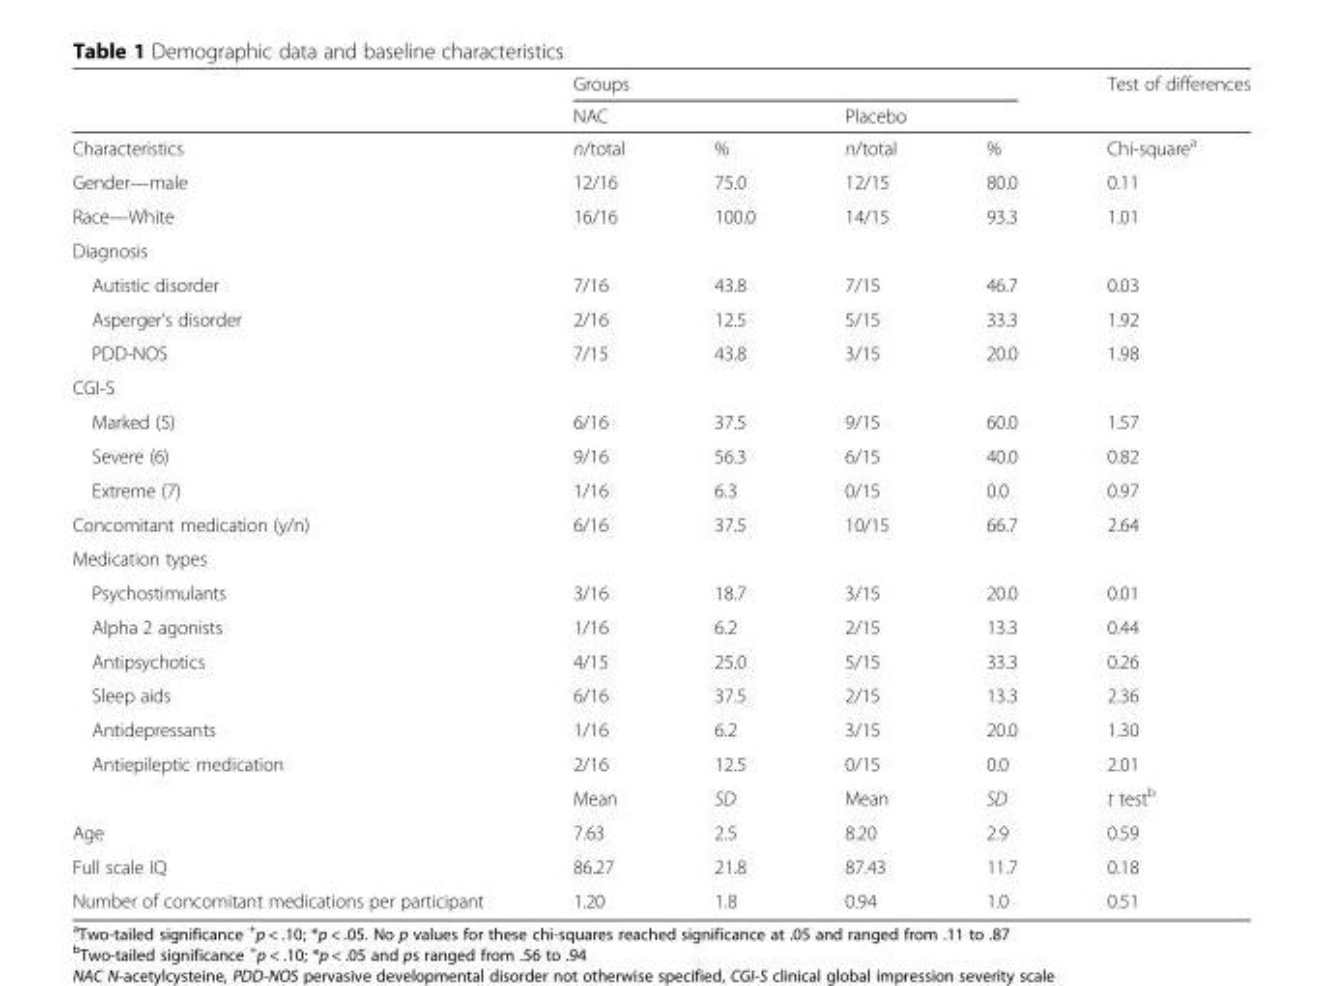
<table><thead><tr><td rowspan="3">Characteristics</td><td colspan="4">Groups</td><td rowspan="3">Test of differences Chi-square<sup>a</sup></td></tr><tr><td colspan="2">NAC</td><td colspan="2">Placebo</td></tr><tr><td>n/total</td><td>%</td><td>n/total</td><td>%</td></tr></thead><tbody><tr><td>Gender—male</td><td>12/16</td><td>75.0</td><td>12/15</td><td>80.0</td><td>0.11</td></tr><tr><td>Race—White</td><td>16/16</td><td>100.0</td><td>14/15</td><td>93.3</td><td>1.01</td></tr><tr><td colspan="6">Diagnosis</td></tr><tr><td>Autistic disorder</td><td>7/16</td><td>43.8</td><td>7/15</td><td>46.7</td><td>0.03</td></tr><tr><td>Asperger’s disorder</td><td>2/16</td><td>12.5</td><td>5/15</td><td>33.3</td><td>1.92</td></tr><tr><td>PDD-NOS</td><td>7/15</td><td>43.8</td><td>3/15</td><td>20.0</td><td>1.98</td></tr><tr><td colspan="6">CGI-S</td></tr><tr><td>Marked (5)</td><td>6/16</td><td>37.5</td><td>9/15</td><td>60.0</td><td>1.57</td></tr><tr><td>Severe (6)</td><td>9/16</td><td>56.3</td><td>6/15</td><td>40.0</td><td>0.82</td></tr><tr><td>Extreme (7)</td><td>1/16</td><td>6.3</td><td>0/15</td><td>0.0</td><td>0.97</td></tr><tr><td>Concomitant medication (y/n)</td><td>6/16</td><td>37.5</td><td>10/15</td><td>66.7</td><td>2.64</td></tr><tr><td colspan="6">Medication types</td></tr><tr><td>Psychostimulants</td><td>3/16</td><td>18.7</td><td>3/15</td><td>20.0</td><td>0.01</td></tr><tr><td>Alpha 2 agonists</td><td>1/16</td><td>6.2</td><td>2/15</td><td>13.3</td><td>0.44</td></tr><tr><td>Antipsychotics</td><td>4/15</td><td>25.0</td><td>5/15</td><td>33.3</td><td>0.26</td></tr><tr><td>Sleep aids</td><td>6/16</td><td>37.5</td><td>2/15</td><td>13.3</td><td>2.36</td></tr><tr><td>Antidepressants</td><td>1/16</td><td>6.2</td><td>3/15</td><td>20.0</td><td>1.30</td></tr><tr><td rowspan="2">Antiepileptic medication</td><td>2/16</td><td>12.5</td><td>0/15</td><td>0.0</td><td>2.01</td></tr><tr><td>Mean</td><td>SD</td><td>Mean</td><td>SD</td><td>t test<sup>b</sup></td></tr><tr><td>Age</td><td>7.63</td><td>2.5</td><td>8.20</td><td>2.9</td><td>0.59</td></tr><tr><td>Full scale IQ</td><td>86.27</td><td>21.8</td><td>87.43</td><td>11.7</td><td>0.18</td></tr><tr><td>Number of concomitant medications per participant</td><td>1.20</td><td>1.8</td><td>0.94</td><td>1.0</td><td>0.51</td></tr></tbody></table>